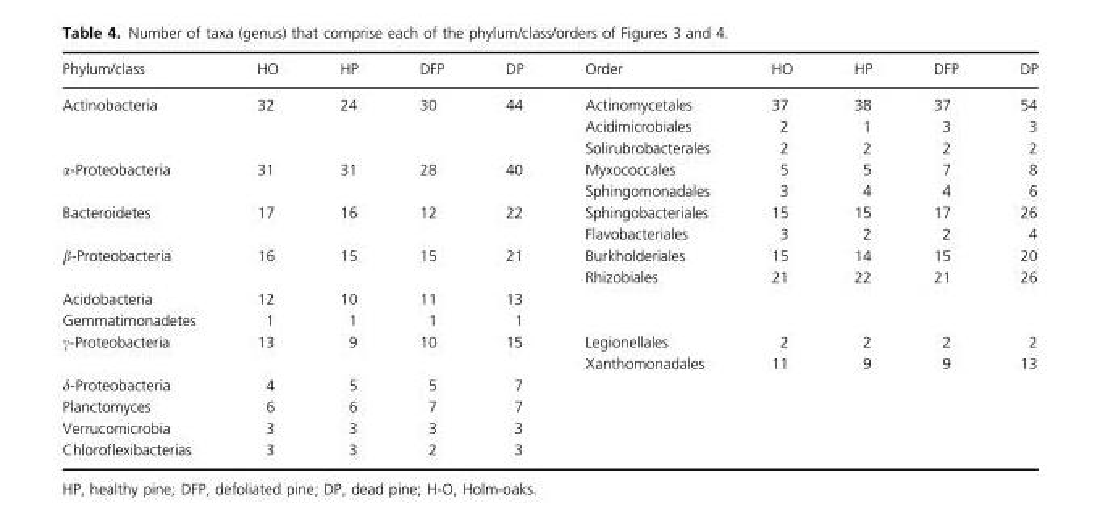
<table><thead><tr><td>Phylum/class</td><td>HO</td><td>HP</td><td>DFP</td><td>DP</td><td>Order</td><td>HO</td><td>HP</td><td>DFP</td><td>DP</td></tr></thead><tbody><tr><td rowspan="3">Actinobacteria</td><td>32</td><td>24</td><td>30</td><td>44</td><td>Actinomycetales</td><td>37</td><td>38</td><td>37</td><td>54</td></tr><tr><td></td><td></td><td></td><td></td><td>Acidimicrobiales</td><td>2</td><td>1</td><td>3</td><td>3</td></tr><tr><td></td><td></td><td></td><td></td><td>Solirubrobacterales</td><td>2</td><td>2</td><td>2</td><td>2</td></tr><tr><td rowspan="2">α-Proteobacteria</td><td>31</td><td>31</td><td>28</td><td>40</td><td>Myxococcales</td><td>5</td><td>5</td><td>7</td><td>8</td></tr><tr><td></td><td></td><td></td><td></td><td>Sphingomonadales</td><td>3</td><td>4</td><td>4</td><td>6</td></tr><tr><td rowspan="2">Bacteroidetes</td><td>17</td><td>16</td><td>12</td><td>22</td><td>Sphingobacteriales</td><td>15</td><td>15</td><td>17</td><td>26</td></tr><tr><td></td><td></td><td></td><td></td><td>Flavobacteriales</td><td>3</td><td>2</td><td>2</td><td>4</td></tr><tr><td rowspan="2">β-Proteobacteria</td><td>16</td><td>15</td><td>15</td><td>21</td><td>Burkholderiales</td><td>15</td><td>14</td><td>15</td><td>20</td></tr><tr><td></td><td></td><td></td><td></td><td>Rhizobiales</td><td>21</td><td>22</td><td>21</td><td>26</td></tr><tr><td>Acidobacteria</td><td>12</td><td>10</td><td>11</td><td>13</td><td></td><td></td><td></td><td></td><td></td></tr><tr><td>Gemmatimonadetes</td><td>1</td><td>1</td><td>1</td><td>1</td><td></td><td></td><td></td><td></td><td></td></tr><tr><td rowspan="2">γ-Proteobacteria</td><td>13</td><td>9</td><td>10</td><td>15</td><td>Legionellales</td><td>2</td><td>2</td><td>2</td><td>2</td></tr><tr><td></td><td></td><td></td><td></td><td>Xanthomonadales</td><td>11</td><td>9</td><td>9</td><td>13</td></tr><tr><td>δ-Proteobacteria</td><td>4</td><td>5</td><td>5</td><td>7</td><td></td><td></td><td></td><td></td><td></td></tr><tr><td>Planctomyces</td><td>6</td><td>6</td><td>7</td><td>7</td><td></td><td></td><td></td><td></td><td></td></tr><tr><td>Verrucomicrobia</td><td>3</td><td>3</td><td>3</td><td>3</td><td></td><td></td><td></td><td></td><td></td></tr><tr><td>Chloroflexibacterias</td><td>3</td><td>3</td><td>2</td><td>3</td><td></td><td></td><td></td><td></td><td></td></tr></tbody></table>